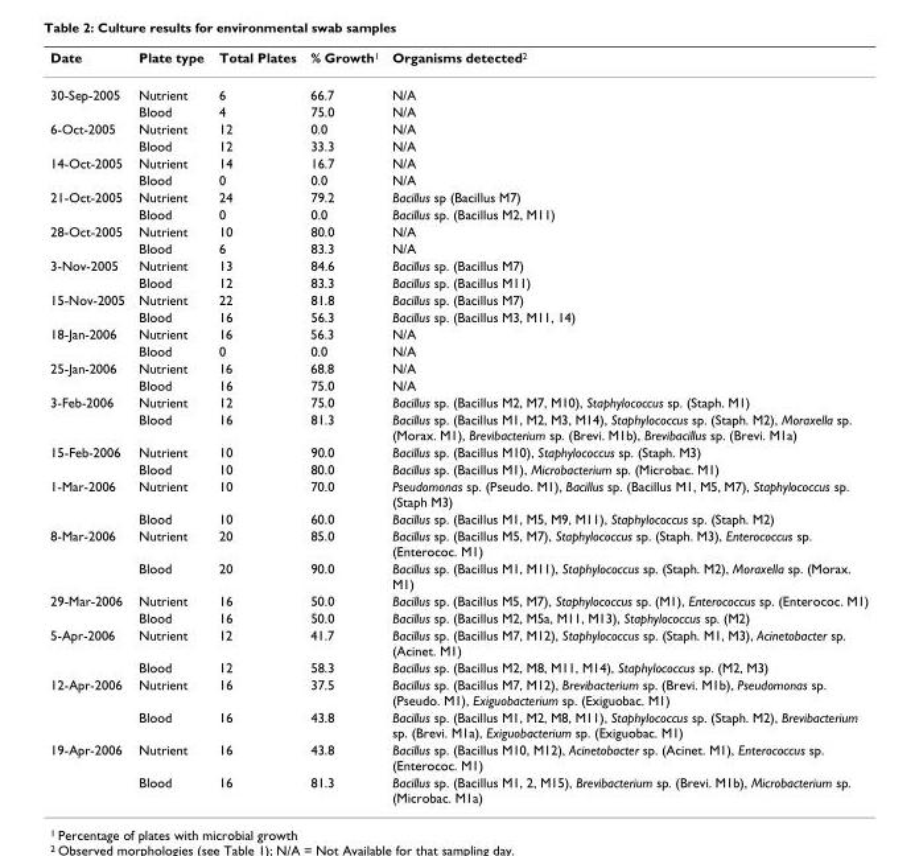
<table><thead><tr><td>Date</td><td>Plate type</td><td>Total Plates</td><td>% Growth<sup>1</sup></td><td>Organisms detected<sup>2</sup></td></tr></thead><tbody><tr><td rowspan="2">30-Sep-2005</td><td>Nutrient</td><td>6</td><td>66.7</td><td>N/A</td></tr><tr><td>Blood</td><td>4</td><td>75.0</td><td>N/A</td></tr><tr><td rowspan="2">6-Oct-2005</td><td>Nutrient</td><td>12</td><td>0.0</td><td>N/A</td></tr><tr><td>Blood</td><td>12</td><td>33.3</td><td>N/A</td></tr><tr><td rowspan="2">14-Oct-2005</td><td>Nutrient</td><td>14</td><td>16.7</td><td>N/A</td></tr><tr><td>Blood</td><td>0</td><td>0.0</td><td>N/A</td></tr><tr><td rowspan="2">21-Oct-2005</td><td>Nutrient</td><td>24</td><td>79.2</td><td>Bacillus sp (Bacillus M7)</td></tr><tr><td>Blood</td><td>0</td><td>0.0</td><td>Bacillus sp. (Bacillus M2, M11)</td></tr><tr><td rowspan="2">28-Oct-2005</td><td>Nutrient</td><td>10</td><td>80.0</td><td>N/A</td></tr><tr><td>Blood</td><td>6</td><td>83.3</td><td>N/A</td></tr><tr><td rowspan="2">3-Nov-2005</td><td>Nutrient</td><td>13</td><td>84.6</td><td>Bacillus sp. (Bacillus M7)</td></tr><tr><td>Blood</td><td>12</td><td>83.3</td><td>Bacillus sp. (Bacillus M11)</td></tr><tr><td rowspan="2">15-Nov-2005</td><td>Nutrient</td><td>22</td><td>81.8</td><td>Bacillus sp. (Bacillus M7)</td></tr><tr><td>Blood</td><td>16</td><td>56.3</td><td>Bacillus sp. (Bacillus M3, M11, 14)</td></tr><tr><td rowspan="2">18-Jan-2006</td><td>Nutrient</td><td>16</td><td>56.3</td><td>N/A</td></tr><tr><td>Blood</td><td>0</td><td>0.0</td><td>N/A</td></tr><tr><td rowspan="2">25-Jan-2006</td><td>Nutrient</td><td>16</td><td>68.8</td><td>N/A</td></tr><tr><td>Blood</td><td>16</td><td>75.0</td><td>N/A</td></tr><tr><td rowspan="2">3-Feb-2006</td><td>Nutrient</td><td>12</td><td>75.0</td><td>Bacillus sp. (Bacillus M2, M7, M10), Staphylococcus sp. (Staph. M1)</td></tr><tr><td>Blood</td><td>16</td><td>81.3</td><td>Bacillus sp. (Bacillus M1, M2, M3, M14), Staphylococcus sp. (Staph. M2), Moraxella sp. (Morax. M1), Brevibacterium sp. (Brevi. M1b), Brevibacillus sp. (Brevi. M1a)</td></tr><tr><td rowspan="2">15-Feb-2006</td><td>Nutrient</td><td>10</td><td>90.0</td><td>Bacillus sp. (Bacillus M10), Staphylococcus sp. (Staph. M3)</td></tr><tr><td>Blood</td><td>10</td><td>80.0</td><td>Bacillus sp. (Bacillus M1), Microbacterium sp. (Microbac. M1)</td></tr><tr><td rowspan="2">1-Mar-2006</td><td>Nutrient</td><td>10</td><td>70.0</td><td>Pseudomonas sp. (Pseudo. M1), Bacillus sp. (Bacillus M1, M5, M7), Staphylococcus sp. (Staph M3)</td></tr><tr><td>Blood</td><td>10</td><td>60.0</td><td>Bacillus sp. (Bacillus M1, M5, M9, M11), Staphylococcus sp. (Staph. M2)</td></tr><tr><td rowspan="2">8-Mar-2006</td><td>Nutrient</td><td>20</td><td>85.0</td><td>Bacillus sp. (Bacillus M5, M7), Staphylococcus sp. (Staph. M3), Enterococcus sp. (Enterococ. M1)</td></tr><tr><td>Blood</td><td>20</td><td>90.0</td><td>Bacillus sp. (Bacillus M1, M11), Staphylococcus sp. (Staph. M2), Moraxella sp. (Morax. M1)</td></tr><tr><td rowspan="2">29-Mar-2006</td><td>Nutrient</td><td>16</td><td>50.0</td><td>Bacillus sp. (Bacillus M5, M7), Staphylococcus sp. (M1), Enterococcus sp. (Enterococ. M1)</td></tr><tr><td>Blood</td><td>16</td><td>50.0</td><td>Bacillus sp. (Bacillus M2, M5a, M11, M13), Staphylococcus sp. (M2)</td></tr><tr><td rowspan="2">5-Apr-2006</td><td>Nutrient</td><td>12</td><td>41.7</td><td>Bacillus sp. (Bacillus M7, M12), Staphylococcus sp. (Staph. M1, M3), Acinetobacter sp. (Acinet. M1)</td></tr><tr><td>Blood</td><td>12</td><td>58.3</td><td>Bacillus sp. (Bacillus M2, M8, M11, M14), Staphylococcus sp. (M2, M3)</td></tr><tr><td rowspan="2">12-Apr-2006</td><td>Nutrient</td><td>16</td><td>37.5</td><td>Bacillus sp. (Bacillus M7, M12), Brevibacterium sp. (Brevi. M1b), Pseudomonas sp. (Pseudo. M1), Exiguobacterium sp. (Exiguobac. M1)</td></tr><tr><td>Blood</td><td>16</td><td>43.8</td><td>Bacillus sp. (Bacillus M1, M2, M8, M11), Staphylococcus sp. (Staph. M2), Brevibacterium sp. (Brevi. M1a), Exiguobacterium sp. (Exiguobac. M1)</td></tr><tr><td rowspan="2">19-Apr-2006</td><td>Nutrient</td><td>16</td><td>43.8</td><td>Bacillus sp. (Bacillus M10, M12), Acinetobacter sp. (Acinet. M1), Enterococcus sp. (Enterococ. M1)</td></tr><tr><td>Blood</td><td>16</td><td>81.3</td><td>Bacillus sp. (Bacillus M1, 2, M15), Brevibacterium sp. (Brevi. M1b), Microbacterium sp. (Microbac. M1a)</td></tr></tbody></table>